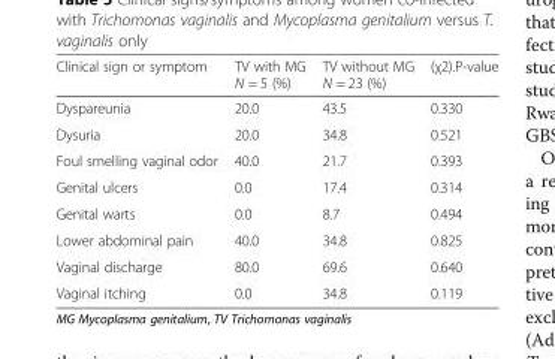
<table><thead><tr><td>Clinical sign or symptom</td><td>TV with MG N = 5 (%)</td><td>TV without MG N = 23 (%)</td><td>(χ2).P-value</td></tr></thead><tbody><tr><td>Dyspareunia</td><td>20.0</td><td>43.5</td><td>0.330</td></tr><tr><td>Dysuria</td><td>20.0</td><td>34.8</td><td>0.521</td></tr><tr><td>Foul smelling vaginal odor</td><td>40.0</td><td>21.7</td><td>0.393</td></tr><tr><td>Genital ulcers</td><td>0.0</td><td>17.4</td><td>0.314</td></tr><tr><td>Genital warts</td><td>0.0</td><td>8.7</td><td>0.494</td></tr><tr><td>Lower abdominal pain</td><td>40.0</td><td>34.8</td><td>0.825</td></tr><tr><td>Vaginal discharge</td><td>80.0</td><td>69.6</td><td>0.640</td></tr><tr><td>Vaginal itching</td><td>0.0</td><td>34.8</td><td>0.119</td></tr></tbody></table>